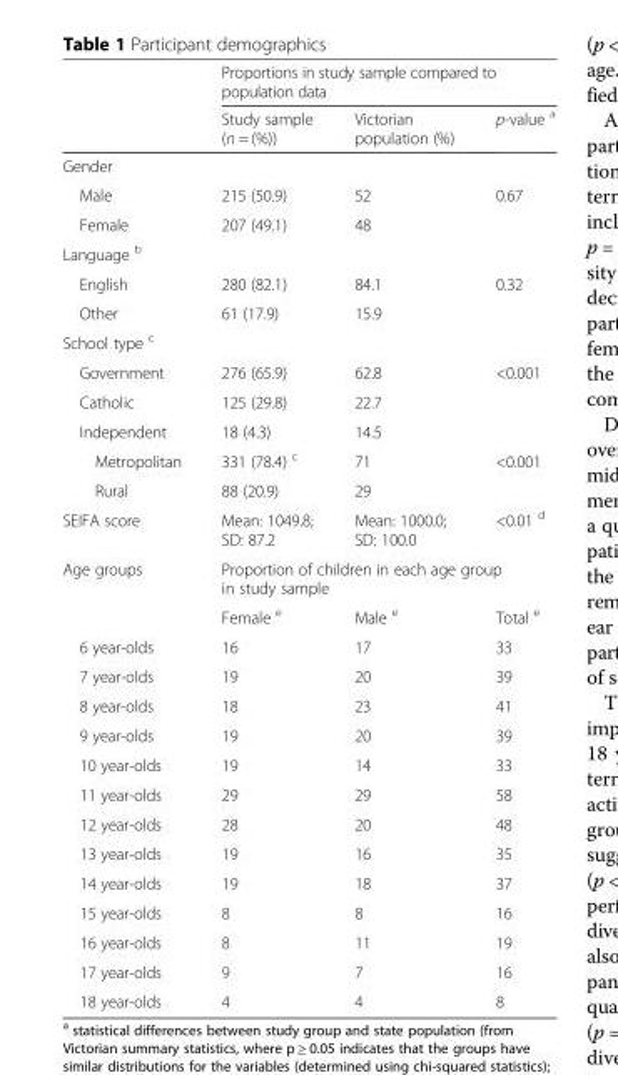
<table><thead><tr><td rowspan="2"></td><td colspan="3">Proportions in study sample compared to population data</td></tr><tr><td>Study sample (n = (%))</td><td>Victorian population (%)</td><td>p-value <sup>a</sup></td></tr></thead><tbody><tr><td colspan="4">Gender</td></tr><tr><td>Male</td><td>215 (50.9)</td><td>52</td><td>0.67</td></tr><tr><td>Female</td><td>207 (49.1)</td><td>48</td><td></td></tr><tr><td colspan="4">Language <sup>b</sup></td></tr><tr><td>English</td><td>280 (82.1)</td><td>84.1</td><td>0.32</td></tr><tr><td>Other</td><td>61 (17.9)</td><td>15.9</td><td></td></tr><tr><td colspan="4">School type <sup>c</sup></td></tr><tr><td>Government</td><td>276 (65.9)</td><td>62.8</td><td>&lt;0.001</td></tr><tr><td>Catholic</td><td>125 (29.8)</td><td>22.7</td><td></td></tr><tr><td>Independent</td><td>18 (4.3)</td><td>14.5</td><td></td></tr><tr><td>Metropolitan</td><td>331 (78.4) <sup>c</sup></td><td>71</td><td>&lt;0.001</td></tr><tr><td>Rural</td><td>88 (20.9)</td><td>29</td><td></td></tr><tr><td>SEIFA score</td><td>Mean: 1049.8; SD: 87.2</td><td>Mean: 1000.0; SD: 100.0</td><td>&lt;0.01 <sup>d</sup></td></tr><tr><td rowspan="2">Age groups</td><td colspan="3">Proportion of children in each age group in study sample</td></tr><tr><td>Female <sup>e</sup></td><td>Male <sup>e</sup></td><td>Total <sup>e</sup></td></tr><tr><td>6 year-olds</td><td>16</td><td>17</td><td>33</td></tr><tr><td>7 year-olds</td><td>19</td><td>20</td><td>39</td></tr><tr><td>8 year-olds</td><td>18</td><td>23</td><td>41</td></tr><tr><td>9 year-olds</td><td>19</td><td>20</td><td>39</td></tr><tr><td>10 year-olds</td><td>19</td><td>14</td><td>33</td></tr><tr><td>11 year-olds</td><td>29</td><td>29</td><td>58</td></tr><tr><td>12 year-olds</td><td>28</td><td>20</td><td>48</td></tr><tr><td>13 year-olds</td><td>19</td><td>16</td><td>35</td></tr><tr><td>14 year-olds</td><td>19</td><td>18</td><td>37</td></tr><tr><td>15 year-olds</td><td>8</td><td>8</td><td>16</td></tr><tr><td>16 year-olds</td><td>8</td><td>11</td><td>19</td></tr><tr><td>17 year-olds</td><td>9</td><td>7</td><td>16</td></tr><tr><td>18 year-olds</td><td>4</td><td>4</td><td>8</td></tr></tbody></table>